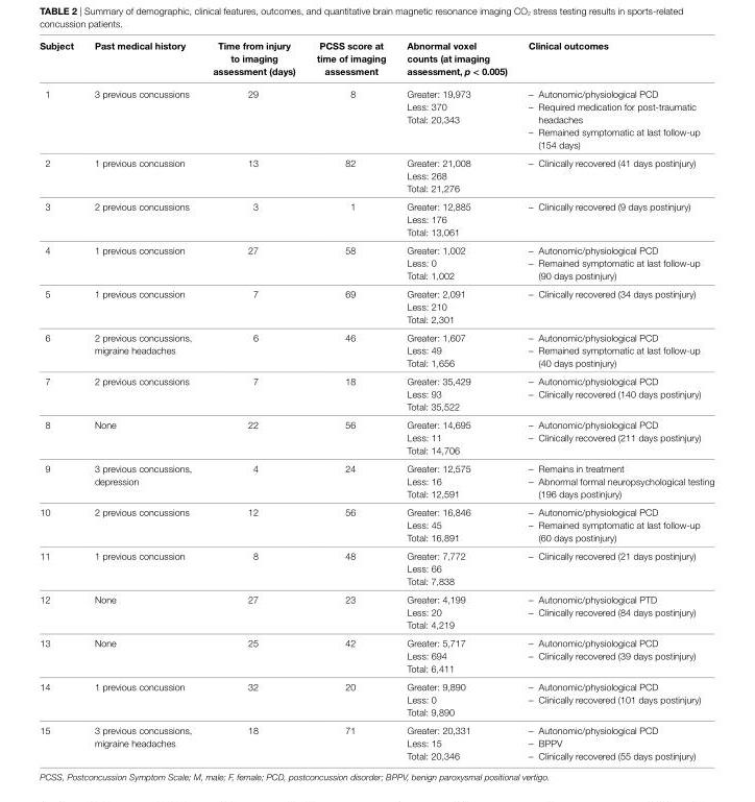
<table><thead><tr><td>subject</td><td>Past medical history</td><td>Time from injury to imaging assessment (days)</td><td>Pcss score at time of imaging assessment</td><td>abnormal voxel counts (at imaging assessment, p &lt; 0.005)</td><td>clinical outcomes</td></tr></thead><tbody><tr><td>1</td><td>3 previous concussions</td><td>29</td><td>8</td><td>Greater: 19,973 Less: 370 Total: 20,343</td><td>– Autonomic/physiological PCD – Required medication for post-traumatic headaches – Remained symptomatic at last follow-up (154 days)</td></tr><tr><td>2</td><td>1 previous concussion</td><td>13</td><td>82</td><td>Greater: 21,008 Less: 268 Total: 21,276</td><td>– Clinically recovered (41 days postinjury)</td></tr><tr><td>3</td><td>2 previous concussions</td><td>3</td><td>1</td><td>Greater: 12,885 Less: 176 Total: 13,061</td><td>– Clinically recovered (9 days postinjury)</td></tr><tr><td>4</td><td>1 previous concussion</td><td>27</td><td>58</td><td>Greater: 1,002 Less: 0 Total: 1,002</td><td>– Autonomic/physiological PCD – Remained symptomatic at last follow-up (90 days postinjury)</td></tr><tr><td>5</td><td>1 previous concussion</td><td>7</td><td>69</td><td>Greater: 2,091 Less: 210 Total: 2,301</td><td>– Clinically recovered (34 days postinjury)</td></tr><tr><td>6</td><td>2 previous concussions, migraine headaches</td><td>6</td><td>46</td><td>Greater: 1,607 Less: 49 Total: 1,656</td><td>– Autonomic/physiological PCD – Remained symptomatic at last follow-up (40 days postinjury)</td></tr><tr><td>7</td><td>2 previous concussions</td><td>7</td><td>18</td><td>Greater: 35,429 Less: 93 Total: 35,522</td><td>– Autonomic/physiological PCD – Clinically recovered (140 days postinjury)</td></tr><tr><td>8</td><td>None</td><td>22</td><td>56</td><td>Greater: 14,695 Less: 11 Total: 14,706</td><td>– Autonomic/physiological PCD – Clinically recovered (211 days postinjury)</td></tr><tr><td>9</td><td>3 previous concussions, depression</td><td>4</td><td>24</td><td>Greater: 12,575 Less: 16 Total: 12,591</td><td>– Remains in treatment – Abnormal formal neuropsychological testing (196 days postinjury)</td></tr><tr><td>10</td><td>2 previous concussions</td><td>12</td><td>56</td><td>Greater: 16,846 Less: 45 Total: 16,891</td><td>– Autonomic/physiological PCD – Remained symptomatic at last follow-up (60 days postinjury)</td></tr><tr><td>11</td><td>1 previous concussion</td><td>8</td><td>48</td><td>Greater: 7,772 Less: 66 Total: 7,838</td><td>– Clinically recovered (21 days postinjury)</td></tr><tr><td>12</td><td>None</td><td>27</td><td>23</td><td>Greater: 4,199 Less: 20 Total: 4,219</td><td>– Autonomic/physiological PTD – Clinically recovered (84 days postinjury)</td></tr><tr><td>13</td><td>None</td><td>25</td><td>42</td><td>Greater: 5,717 Less: 694 Total: 6,411</td><td>– Autonomic/physiological PCD – Clinically recovered (39 days postinjury)</td></tr><tr><td>14</td><td>1 previous concussion</td><td>32</td><td>20</td><td>Greater: 9,890 Less: 0 Total: 9,890</td><td>– Autonomic/physiological PCD – Clinically recovered (101 days postinjury)</td></tr><tr><td>15</td><td>3 previous concussions, migraine headaches</td><td>18</td><td>71</td><td>Greater: 20,331 Less: 15 Total: 20,346</td><td>– Autonomic/physiological PCD – BPPV – Clinically recovered (55 days postinjury)</td></tr></tbody></table>